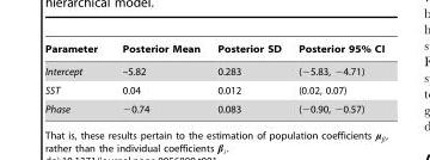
<table><thead><tr><td>Parameter</td><td>Posterior Mean</td><td>Posterior SD</td><td>Posterior 95% CI</td></tr></thead><tbody><tr><td>Intercept</td><td>–5.82</td><td>0.283</td><td>(−5.83, −4.71)</td></tr><tr><td>SST</td><td>0.04</td><td>0.012</td><td>(0.02, 0.07)</td></tr><tr><td>Phase</td><td>−0.74</td><td>0.083</td><td>(−0.90, −0.57)</td></tr></tbody></table>